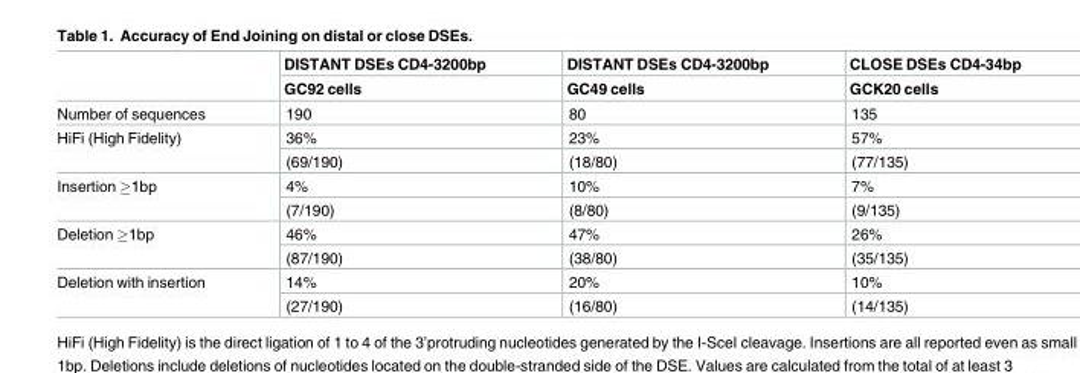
<table><thead><tr><td rowspan="2"></td><td rowspan="2">DISTANT DSEs CD4-3200bp GC92 cells</td><td rowspan="2">DISTANT DSEs CD4-3200bp GC49 cells</td><td rowspan="2">CLOSE DSEs CD4-34bp GCK20 cells</td></tr><tr></tr></thead><tbody><tr><td>Number of sequences</td><td>190</td><td>80</td><td>135</td></tr><tr><td rowspan="2">HiFi (High Fidelity)</td><td>36%</td><td>23%</td><td>57%</td></tr><tr><td>(69/190)</td><td>(18/80)</td><td>(77/135)</td></tr><tr><td rowspan="2">Insertion ≥1bp</td><td>4%</td><td>10%</td><td>7%</td></tr><tr><td>(7/190)</td><td>(8/80)</td><td>(9/135)</td></tr><tr><td rowspan="2">Deletion ≥1bp</td><td>46%</td><td>47%</td><td>26%</td></tr><tr><td>(87/190)</td><td>(38/80)</td><td>(35/135)</td></tr><tr><td rowspan="2">Deletion with insertion</td><td>14%</td><td>20%</td><td>10%</td></tr><tr><td>(27/190)</td><td>(16/80)</td><td>(14/135)</td></tr></tbody></table>